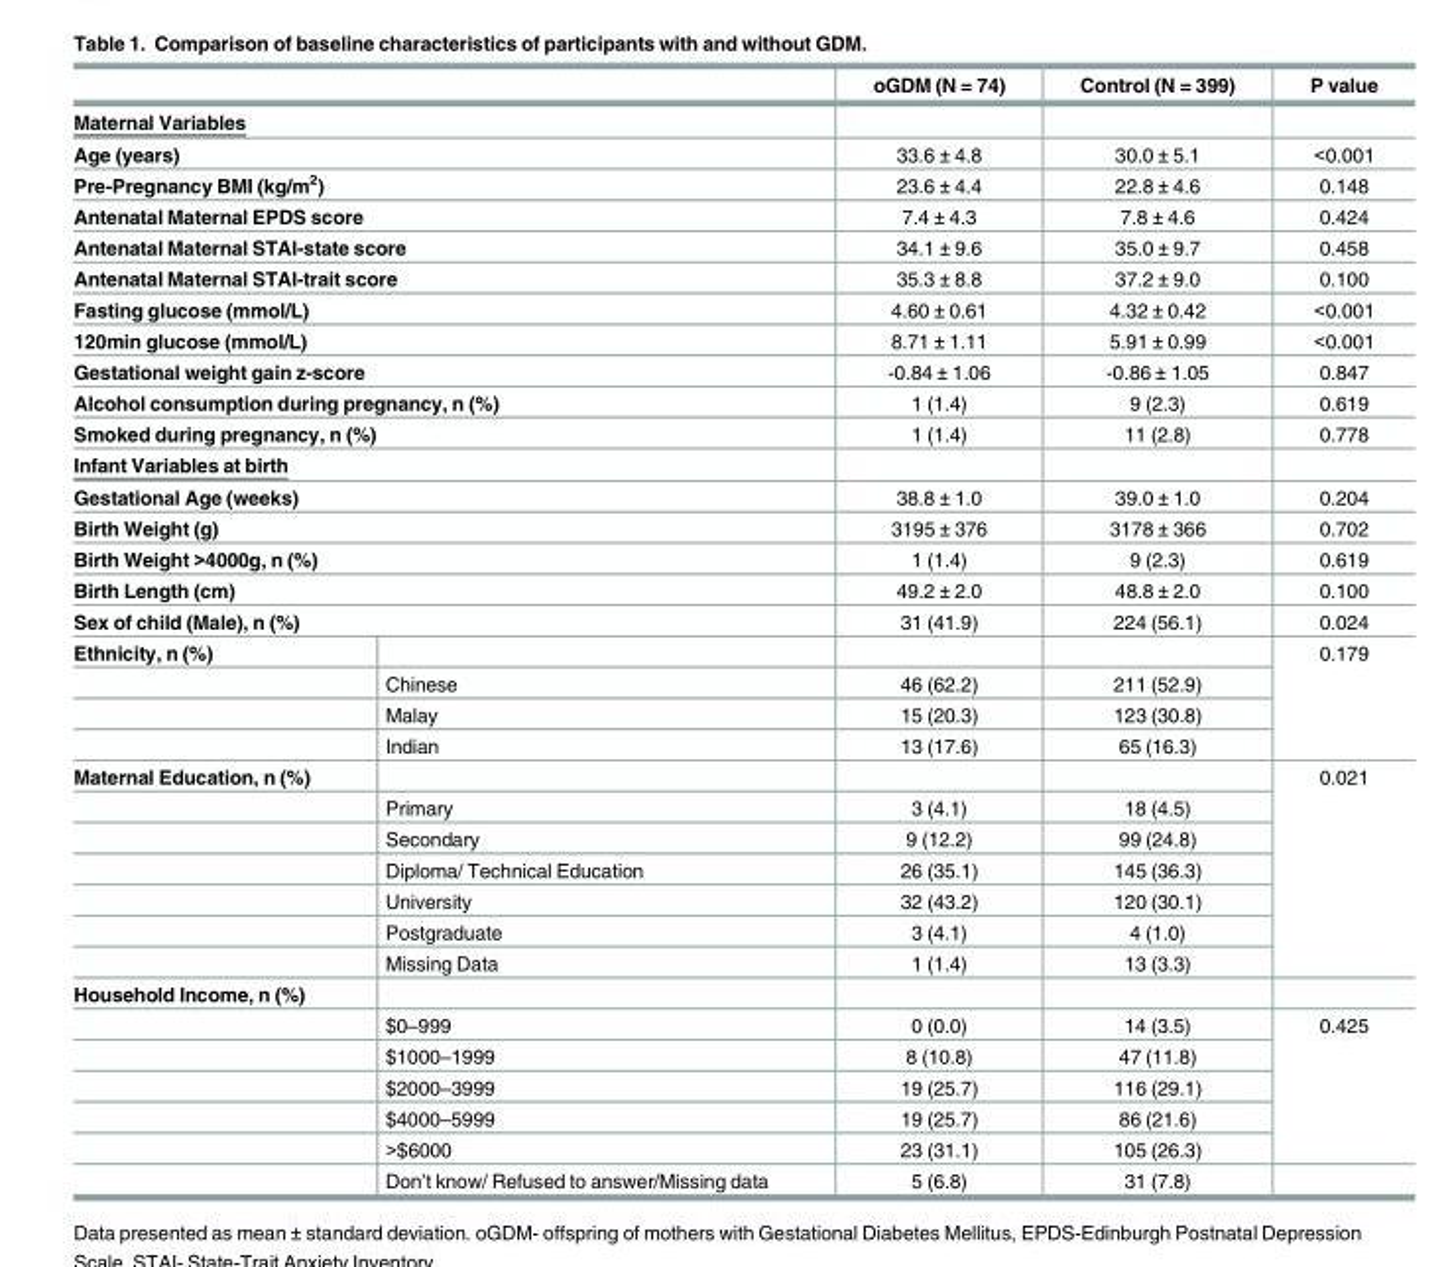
<table><thead><tr><td></td><td></td><td>oGDM (N = 74)</td><td>Control (N = 399)</td><td>P value</td></tr></thead><tbody><tr><td colspan="5">Maternal Variables</td></tr><tr><td colspan="2">Age (years)</td><td>33.6 ± 4.8</td><td>30.0 ± 5.1</td><td>&lt;0.001</td></tr><tr><td colspan="2">Pre-Pregnancy BMI (kg/m<sup>2</sup>)</td><td>23.6 ± 4.4</td><td>22.8 ± 4.6</td><td>0.148</td></tr><tr><td colspan="2">Antenatal Maternal EPDS score</td><td>7.4 ± 4.3</td><td>7.8 ± 4.6</td><td>0.424</td></tr><tr><td colspan="2">Antenatal Maternal STAI-state score</td><td>34.1 ± 9.6</td><td>35.0 ± 9.7</td><td>0.458</td></tr><tr><td colspan="2">Antenatal Maternal STAI-trait score</td><td>35.3 ± 8.8</td><td>37.2 ± 9.0</td><td>0.100</td></tr><tr><td colspan="2">Fasting glucose (mmol/L)</td><td>4.60 ± 0.61</td><td>4.32 ± 0.42</td><td>&lt;0.001</td></tr><tr><td colspan="2">120min glucose (mmol/L)</td><td>8.71 ± 1.11</td><td>5.91 ± 0.99</td><td>&lt;0.001</td></tr><tr><td colspan="2">Gestational weight gain z-score</td><td>-0.84 ± 1.06</td><td>-0.86 ± 1.05</td><td>0.847</td></tr><tr><td colspan="2">Alcohol consumption during pregnancy, n (%)</td><td>1 (1.4)</td><td>9 (2.3)</td><td>0.619</td></tr><tr><td colspan="2">Smoked during pregnancy, n (%)</td><td>1 (1.4)</td><td>11 (2.8)</td><td>0.778</td></tr><tr><td colspan="5">Infant Variables at birth</td></tr><tr><td colspan="2">Gestational Age (weeks)</td><td>38.8 ± 1.0</td><td>39.0 ± 1.0</td><td>0.204</td></tr><tr><td colspan="2">Birth Weight (g)</td><td>3195 ± 376</td><td>3178 ± 366</td><td>0.702</td></tr><tr><td colspan="2">Birth Weight &gt;4000g, n (%)</td><td>1 (1.4)</td><td>9 (2.3)</td><td>0.619</td></tr><tr><td colspan="2">Birth Length (cm)</td><td>49.2 ± 2.0</td><td>48.8 ± 2.0</td><td>0.100</td></tr><tr><td colspan="2">Sex of child (Male), n (%)</td><td>31 (41.9)</td><td>224 (56.1)</td><td>0.024</td></tr><tr><td colspan="4">Ethnicity, n (%)</td><td rowspan="4">0.179</td></tr><tr><td></td><td>Chinese</td><td>46 (62.2)</td><td>211 (52.9)</td></tr><tr><td></td><td>Malay</td><td>15 (20.3)</td><td>123 (30.8)</td></tr><tr><td></td><td>Indian</td><td>13 (17.6)</td><td>65 (16.3)</td></tr><tr><td colspan="4">Maternal Education, n (%)</td><td rowspan="7">0.021</td></tr><tr><td></td><td>Primary</td><td>3 (4.1)</td><td>18 (4.5)</td></tr><tr><td></td><td>Secondary</td><td>9 (12.2)</td><td>99 (24.8)</td></tr><tr><td></td><td>Diploma/ Technical Education</td><td>26 (35.1)</td><td>145 (36.3)</td></tr><tr><td></td><td>University</td><td>32 (43.2)</td><td>120 (30.1)</td></tr><tr><td></td><td>Postgraduate</td><td>3 (4.1)</td><td>4 (1.0)</td></tr><tr><td></td><td>Missing Data</td><td>1 (1.4)</td><td>13 (3.3)</td></tr><tr><td colspan="5">Household Income, n (%)</td></tr><tr><td></td><td>$0–999</td><td>0 (0.0)</td><td>14 (3.5)</td><td rowspan="5">0.425</td></tr><tr><td></td><td>$1000–1999</td><td>8 (10.8)</td><td>47 (11.8)</td></tr><tr><td></td><td>$2000–3999</td><td>19 (25.7)</td><td>116 (29.1)</td></tr><tr><td></td><td>$4000–5999</td><td>19 (25.7)</td><td>86 (21.6)</td></tr><tr><td></td><td>&gt;$6000</td><td>23 (31.1)</td><td>105 (26.3)</td></tr><tr><td></td><td>Don’t know/ Refused to answer/Missing data</td><td>5 (6.8)</td><td>31 (7.8)</td><td></td></tr></tbody></table>